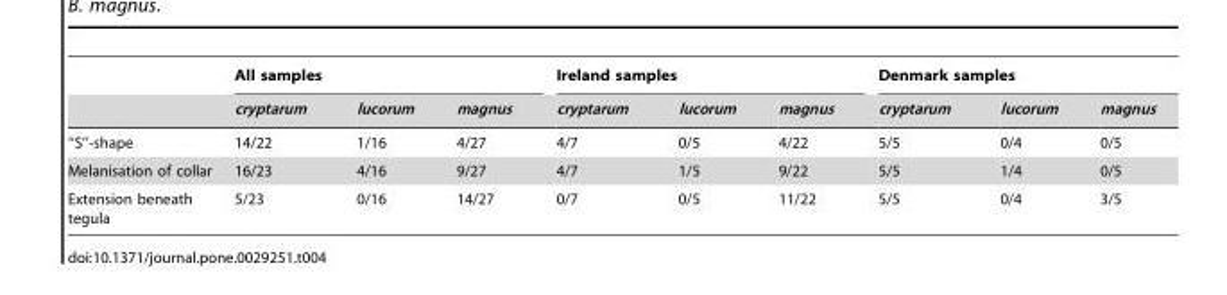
<table><thead><tr><td rowspan="2"></td><td colspan="3">All samples</td><td colspan="3">Ireland samples</td><td colspan="3">Denmark samples</td></tr><tr><td>cryptarum</td><td>lucorum</td><td>magnus</td><td>cryptarum</td><td>lucorum</td><td>magnus</td><td>cryptarum</td><td>lucorum</td><td>magnus</td></tr></thead><tbody><tr><td>‘‘S’’-shape</td><td>14/22</td><td>1/16</td><td>4/27</td><td>4/7</td><td>0/5</td><td>4/22</td><td>5/5</td><td>0/4</td><td>0/5</td></tr><tr><td>Melanisation of collar</td><td>16/23</td><td>4/16</td><td>9/27</td><td>4/7</td><td>1/5</td><td>9/22</td><td>5/5</td><td>1/4</td><td>0/5</td></tr><tr><td>Extension beneath tegula</td><td>5/23</td><td>0/16</td><td>14/27</td><td>0/7</td><td>0/5</td><td>11/22</td><td>5/5</td><td>0/4</td><td>3/5</td></tr></tbody></table>